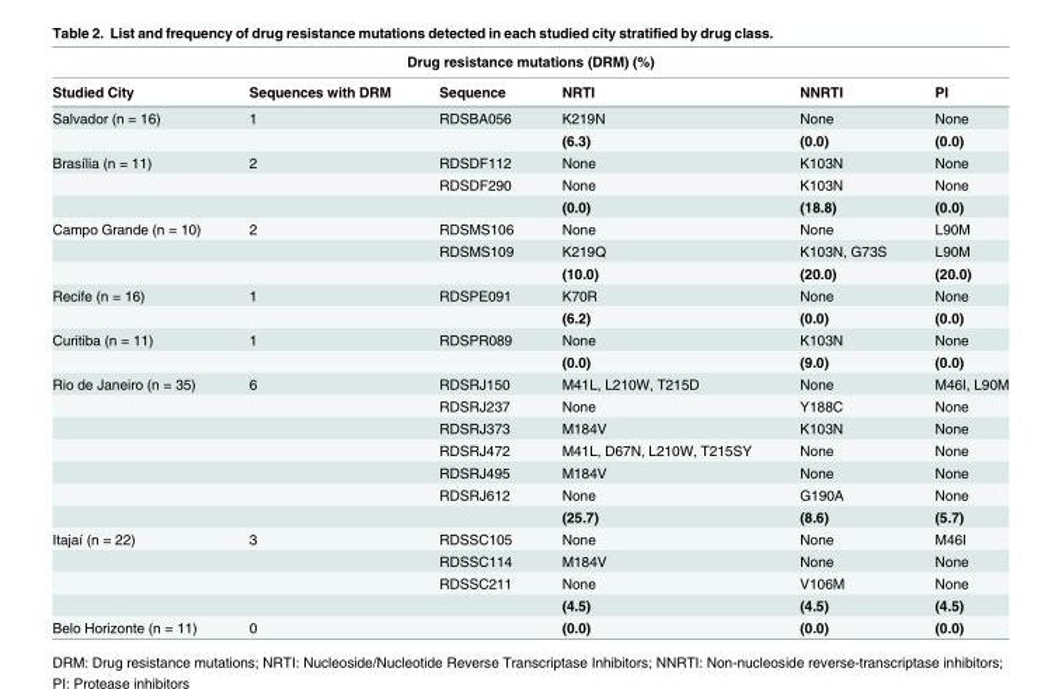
<table><thead><tr><td colspan="6">Drug resistance mutations (DRM) (%)</td></tr><tr><td>Studied City</td><td>Sequences with DRM</td><td>Sequence</td><td>NRTI</td><td>NNRTI</td><td>PI</td></tr></thead><tbody><tr><td rowspan="2">Salvador (n = 16)</td><td>1</td><td>RDSBA056</td><td>K219N</td><td>None</td><td>None</td></tr><tr><td></td><td></td><td>(6.3)</td><td>(0.0)</td><td>(0.0)</td></tr><tr><td rowspan="3">Brasília (n = 11)</td><td>2</td><td>RDSDF112</td><td>None</td><td>K103N</td><td>None</td></tr><tr><td></td><td>RDSDF290</td><td>None</td><td>K103N</td><td>None</td></tr><tr><td></td><td></td><td>(0.0)</td><td>(18.8)</td><td>(0.0)</td></tr><tr><td rowspan="3">Campo Grande (n = 10)</td><td>2</td><td>RDSMS106</td><td>None</td><td>None</td><td>L90M</td></tr><tr><td></td><td>RDSMS109</td><td>K219Q</td><td>K103N, G73S</td><td>L90M</td></tr><tr><td></td><td></td><td>(10.0)</td><td>(20.0)</td><td>(20.0)</td></tr><tr><td rowspan="2">Recife (n = 16)</td><td>1</td><td>RDSPE091</td><td>K70R</td><td>None</td><td>None</td></tr><tr><td></td><td></td><td>(6.2)</td><td>(0.0)</td><td>(0.0)</td></tr><tr><td rowspan="2">Curitiba (n = 11)</td><td>1</td><td>RDSPR089</td><td>None</td><td>K103N</td><td>None</td></tr><tr><td></td><td></td><td>(0.0)</td><td>(9.0)</td><td>(0.0)</td></tr><tr><td rowspan="7">Rio de Janeiro (n = 35)</td><td>6</td><td>RDSRJ150</td><td>M41L, L210W, T215D</td><td>None</td><td>M46I, L90M</td></tr><tr><td></td><td>RDSRJ237</td><td>None</td><td>Y188C</td><td>None</td></tr><tr><td></td><td>RDSRJ373</td><td>M184V</td><td>K103N</td><td>None</td></tr><tr><td></td><td>RDSRJ472</td><td>M41L, D67N, L210W, T215SY</td><td>None</td><td>None</td></tr><tr><td></td><td>RDSRJ495</td><td>M184V</td><td>None</td><td>None</td></tr><tr><td></td><td>RDSRJ612</td><td>None</td><td>G190A</td><td>None</td></tr><tr><td></td><td></td><td>(25.7)</td><td>(8.6)</td><td>(5.7)</td></tr><tr><td rowspan="4">Itajaí (n = 22)</td><td>3</td><td>RDSSC105</td><td>None</td><td>None</td><td>M46I</td></tr><tr><td></td><td>RDSSC114</td><td>M184V</td><td>None</td><td>None</td></tr><tr><td></td><td>RDSSC211</td><td>None</td><td>V106M</td><td>None</td></tr><tr><td></td><td></td><td>(4.5)</td><td>(4.5)</td><td>(4.5)</td></tr><tr><td>Belo Horizonte (n = 11)</td><td>0</td><td></td><td>(0.0)</td><td>(0.0)</td><td>(0.0)</td></tr></tbody></table>